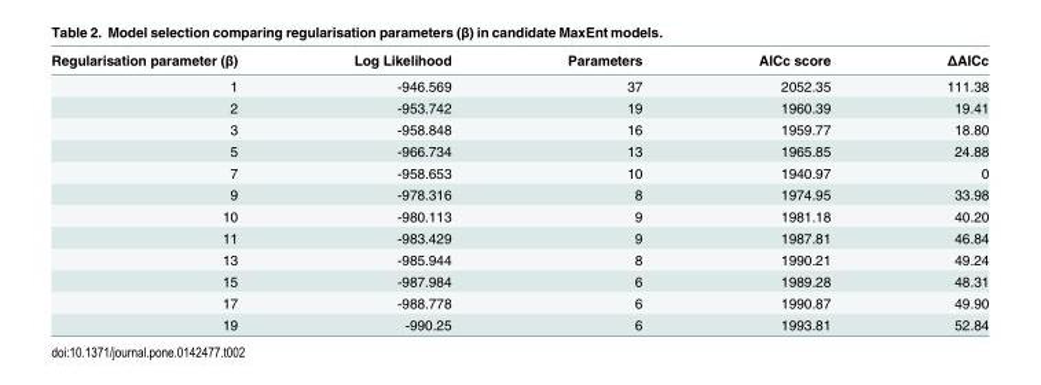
<table><thead><tr><td>Regularisation parameter (β)</td><td>Log Likelihood</td><td>Parameters</td><td>AICc score</td><td>ΔAICc</td></tr></thead><tbody><tr><td>1</td><td>-946.569</td><td>37</td><td>2052.35</td><td>111.38</td></tr><tr><td>2</td><td>-953.742</td><td>19</td><td>1960.39</td><td>19.41</td></tr><tr><td>3</td><td>-958.848</td><td>16</td><td>1959.77</td><td>18.80</td></tr><tr><td>5</td><td>-966.734</td><td>13</td><td>1965.85</td><td>24.88</td></tr><tr><td>7</td><td>-958.653</td><td>10</td><td>1940.97</td><td>0</td></tr><tr><td>9</td><td>-978.316</td><td>8</td><td>1974.95</td><td>33.98</td></tr><tr><td>10</td><td>-980.113</td><td>9</td><td>1981.18</td><td>40.20</td></tr><tr><td>11</td><td>-983.429</td><td>9</td><td>1987.81</td><td>46.84</td></tr><tr><td>13</td><td>-985.944</td><td>8</td><td>1990.21</td><td>49.24</td></tr><tr><td>15</td><td>-987.984</td><td>6</td><td>1989.28</td><td>48.31</td></tr><tr><td>17</td><td>-988.778</td><td>6</td><td>1990.87</td><td>49.90</td></tr><tr><td>19</td><td>-990.25</td><td>6</td><td>1993.81</td><td>52.84</td></tr></tbody></table>